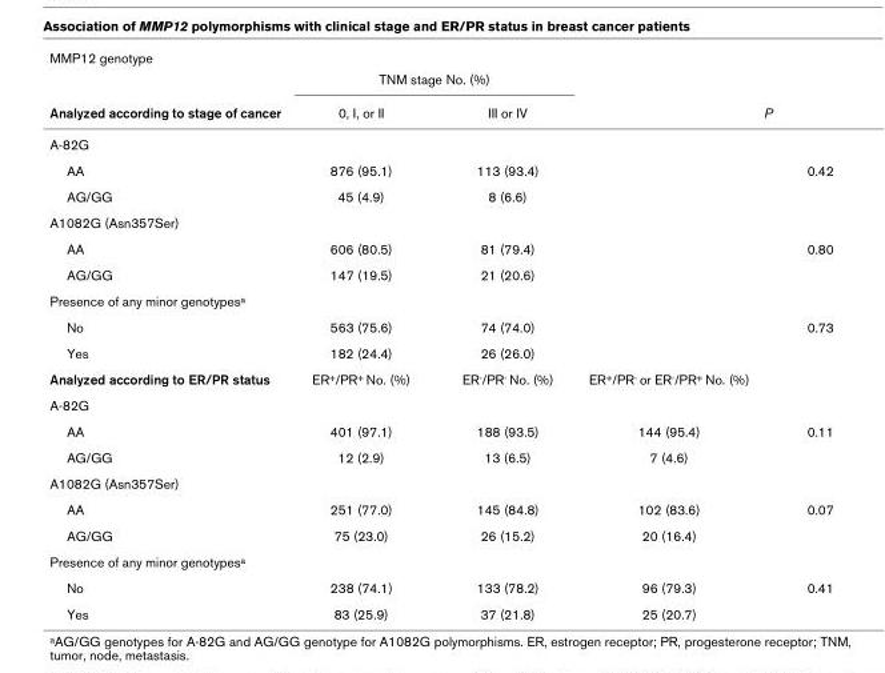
<table><thead><tr><td rowspan="3">MMP12 genotype Analyzed according to stage of cancer</td><td></td><td></td><td rowspan="3"></td><td rowspan="3">P</td></tr><tr><td colspan="2">TNM stage No. (%)</td></tr><tr><td>0, I, or II</td><td>III or IV</td></tr></thead><tbody><tr><td colspan="5">A-82G</td></tr><tr><td>AA</td><td>876 (95.1)</td><td>113 (93.4)</td><td></td><td>0.42</td></tr><tr><td>AG/GG</td><td>45 (4.9)</td><td>8 (6.6)</td><td></td><td></td></tr><tr><td colspan="5">A1082G (Asn357Ser)</td></tr><tr><td>AA</td><td>606 (80.5)</td><td>81 (79.4)</td><td></td><td>0.80</td></tr><tr><td>AG/GG</td><td>147 (19.5)</td><td>21 (20.6)</td><td></td><td></td></tr><tr><td colspan="5">Presence of any minor genotypesa</td></tr><tr><td>No</td><td>563 (75.6)</td><td>74 (74.0)</td><td></td><td>0.73</td></tr><tr><td>Yes</td><td>182 (24.4)</td><td>26 (26.0)</td><td></td><td></td></tr><tr><td>Analyzed according to ER/PR status</td><td>ER+/PR+ No. (%)</td><td>ER-/PR- No. (%)</td><td>ER+/PR- or ER-/PR+ No. (%)</td><td></td></tr><tr><td colspan="5">A-82G</td></tr><tr><td>AA</td><td>401 (97.1)</td><td>188 (93.5)</td><td>144 (95.4)</td><td>0.11</td></tr><tr><td>AG/GG</td><td>12 (2.9)</td><td>13 (6.5)</td><td>7 (4.6)</td><td></td></tr><tr><td colspan="5">A1082G (Asn357Ser)</td></tr><tr><td>AA</td><td>251 (77.0)</td><td>145 (84.8)</td><td>102 (83.6)</td><td>0.07</td></tr><tr><td>AG/GG</td><td>75 (23.0)</td><td>26 (15.2)</td><td>20 (16.4)</td><td></td></tr><tr><td colspan="5">Presence of any minor genotypesa</td></tr><tr><td>No</td><td>238 (74.1)</td><td>133 (78.2)</td><td>96 (79.3)</td><td>0.41</td></tr><tr><td>Yes</td><td>83 (25.9)</td><td>37 (21.8)</td><td>25 (20.7)</td><td></td></tr></tbody></table>